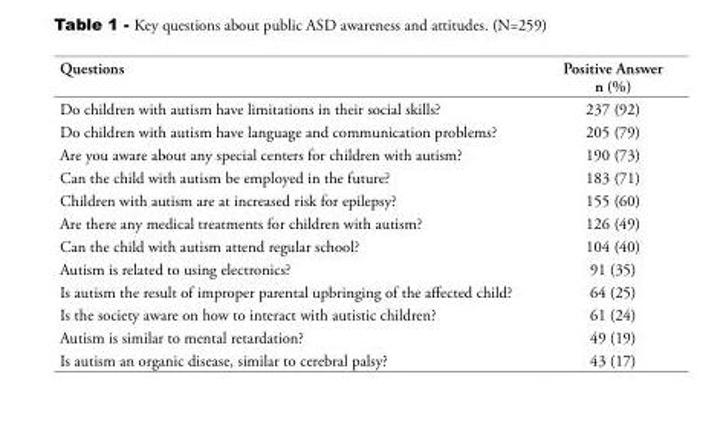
<table><thead><tr><td>Questions</td><td>Positive Answer n (%)</td></tr></thead><tbody><tr><td>Do children with autism have limitations in their social skills?</td><td>237 )92(</td></tr><tr><td>Do children with autism have language and communication problems?</td><td>205 )79(</td></tr><tr><td>Are you aware about any special centers for children with autism?</td><td>190 )73(</td></tr><tr><td>Can the child with autism be employed in the future?</td><td>183 )71(</td></tr><tr><td>Children with autism are at increased risk for epilepsy?</td><td>155 )60(</td></tr><tr><td>Are there any medical treatments for children with autism?</td><td>126 )49(</td></tr><tr><td>Can the child with autism attend regular school?</td><td>104 )40(</td></tr><tr><td>Autism is related to using electronics?</td><td>91 )35(</td></tr><tr><td>Is autism the result of improper parental upbringing of the affected child?</td><td>64 )25(</td></tr><tr><td>Is the society aware on how to interact with autistic children?</td><td>61 )24(</td></tr><tr><td>Autism is similar to mental retardation?</td><td>49 )19(</td></tr><tr><td>Is autism an organic disease, similar to cerebral palsy?</td><td>43 )17(</td></tr></tbody></table>